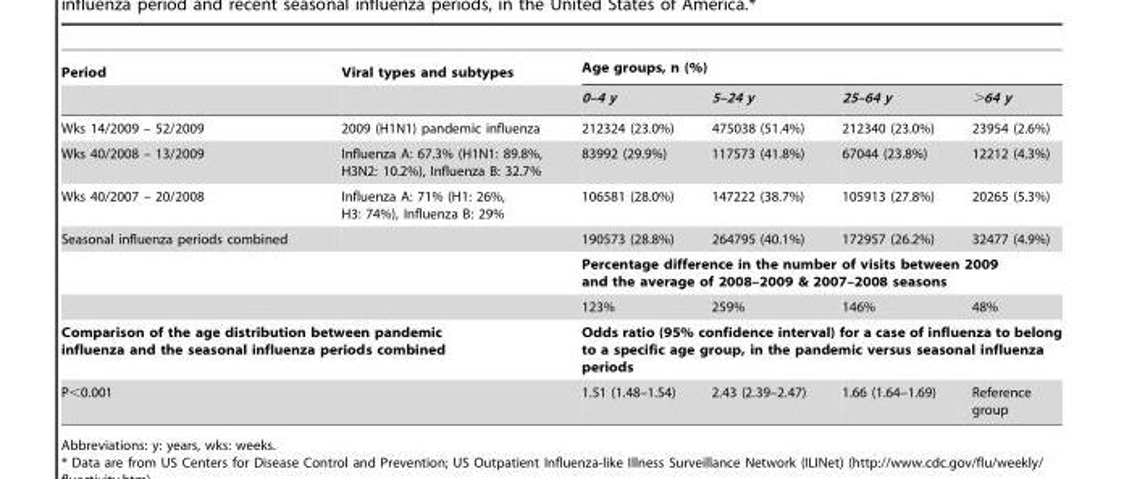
<table><thead><tr><td rowspan="2">Period</td><td rowspan="2">Viral types and subtypes</td><td colspan="4">Age groups, n (%)</td></tr><tr><td>0–4 y</td><td>5–24 y</td><td>25–64 y</td><td>&gt;64 y</td></tr></thead><tbody><tr><td>Wks 14/2009 – 52/2009</td><td>2009 (H1N1) pandemic influenza</td><td>212324 (23.0%)</td><td>475038 (51.4%)</td><td>212340 (23.0%)</td><td>23954 (2.6%)</td></tr><tr><td>Wks 40/2008 – 13/2009</td><td>Influenza A: 67.3% (H1N1: 89.8%, H3N2: 10.2%), Influenza B: 32.7%</td><td>83992 (29.9%)</td><td>117573 (41.8%)</td><td>67044 (23.8%)</td><td>12212 (4.3%)</td></tr><tr><td>Wks 40/2007 – 20/2008</td><td>Influenza A: 71% (H1: 26%, H3: 74%), Influenza B: 29%</td><td>106581 (28.0%)</td><td>147222 (38.7%)</td><td>105913 (27.8%)</td><td>20265 (5.3%)</td></tr><tr><td>Seasonal influenza periods combined</td><td></td><td>190573 (28.8%)</td><td>264795 (40.1%)</td><td>172957 (26.2%)</td><td>32477 (4.9%)</td></tr><tr><td colspan="2"></td><td colspan="4">Percentage difference in the number of visits between 2009 and the average of 2008–2009 &amp; 2007–2008 seasons</td></tr><tr><td colspan="2"></td><td>123%</td><td>259%</td><td>146%</td><td>48%</td></tr><tr><td colspan="2">Comparison of the age distribution between pandemic influenza and the seasonal influenza periods combined</td><td colspan="4">Odds ratio (95% confidence interval) for a case of influenza to belong to a specific age group, in the pandemic versus seasonal influenza periods</td></tr><tr><td colspan="2">P&lt;0.001</td><td>1.51 (1.48–1.54)</td><td>2.43 (2.39–2.47)</td><td>1.66 (1.64–1.69)</td><td>Reference group</td></tr></tbody></table>